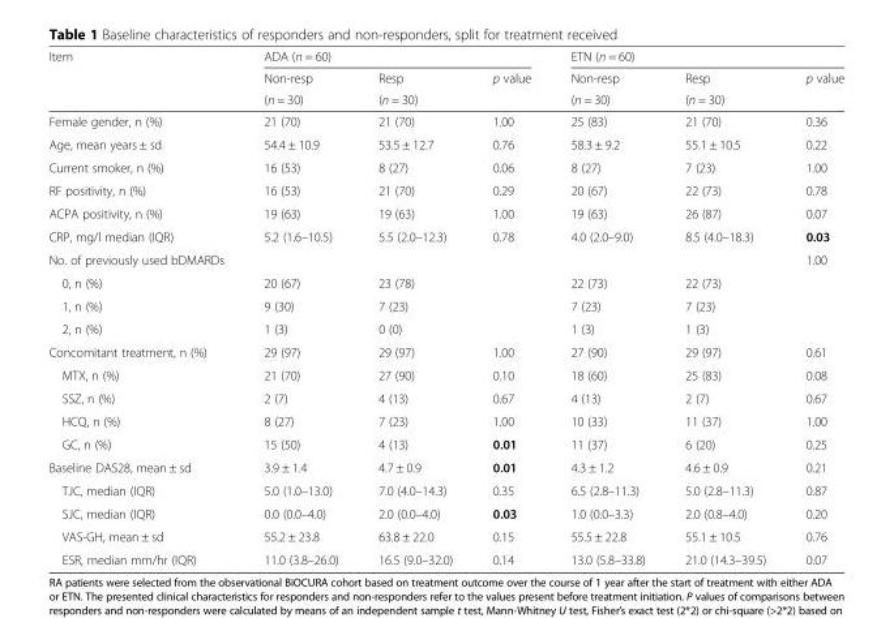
<table><thead><tr><td rowspan="3">Item</td><td colspan="3">ADA (n = 60)</td><td colspan="3">ETN (n = 60)</td></tr><tr><td rowspan="2">Non-resp (n = 30)</td><td rowspan="2">Resp (n = 30)</td><td rowspan="2">p value</td><td rowspan="2">Non-resp (n = 30)</td><td rowspan="2">Resp (n = 30)</td><td rowspan="2">p value</td></tr><tr></tr></thead><tbody><tr><td>Female gender, n (%)</td><td>21 (70)</td><td>21 (70)</td><td>1.00</td><td>25 (83)</td><td>21 (70)</td><td>0.36</td></tr><tr><td>Age, mean years ± sd</td><td>54.4 ± 10.9</td><td>53.5 ± 12.7</td><td>0.76</td><td>58.3 ± 9.2</td><td>55.1 ± 10.5</td><td>0.22</td></tr><tr><td>Current smoker, n (%)</td><td>16 (53)</td><td>8 (27)</td><td>0.06</td><td>8 (27)</td><td>7 (23)</td><td>1.00</td></tr><tr><td>RF positivity, n (%)</td><td>16 (53)</td><td>21 (70)</td><td>0.29</td><td>20 (67)</td><td>22 (73)</td><td>0.78</td></tr><tr><td>ACPA positivity, n (%)</td><td>19 (63)</td><td>19 (63)</td><td>1.00</td><td>19 (63)</td><td>26 (87)</td><td>0.07</td></tr><tr><td>CRP, mg/l median (IQR)</td><td>5.2 (1.6–10.5)</td><td>5.5 (2.0–12.3)</td><td>0.78</td><td>4.0 (2.0–9.0)</td><td>8.5 (4.0–18.3)</td><td>0.03</td></tr><tr><td>No. of previously used bDMARDs</td><td></td><td></td><td></td><td></td><td></td><td>1.00</td></tr><tr><td>0, n (%)</td><td>20 (67)</td><td>23 (78)</td><td></td><td>22 (73)</td><td>22 (73)</td><td></td></tr><tr><td>1, n (%)</td><td>9 (30)</td><td>7 (23)</td><td></td><td>7 (23)</td><td>7 (23)</td><td></td></tr><tr><td>2, n (%)</td><td>1 (3)</td><td>0 (0)</td><td></td><td>1 (3)</td><td>1 (3)</td><td></td></tr><tr><td>Concomitant treatment, n (%)</td><td>29 (97)</td><td>29 (97)</td><td>1.00</td><td>27 (90)</td><td>29 (97)</td><td>0.61</td></tr><tr><td>MTX, n (%)</td><td>21 (70)</td><td>27 (90)</td><td>0.10</td><td>18 (60)</td><td>25 (83)</td><td>0.08</td></tr><tr><td>SSZ, n (%)</td><td>2 (7)</td><td>4 (13)</td><td>0.67</td><td>4 (13)</td><td>2 (7)</td><td>0.67</td></tr><tr><td>HCQ, n (%)</td><td>8 (27)</td><td>7 (23)</td><td>1.00</td><td>10 (33)</td><td>11 (37)</td><td>1.00</td></tr><tr><td>GC, n (%)</td><td>15 (50)</td><td>4 (13)</td><td>0.01</td><td>11 (37)</td><td>6 (20)</td><td>0.25</td></tr><tr><td>Baseline DAS28, mean ± sd</td><td>3.9 ± 1.4</td><td>4.7 ± 0.9</td><td>0.01</td><td>4.3 ± 1.2</td><td>4.6 ± 0.9</td><td>0.21</td></tr><tr><td>TJC, median (IQR)</td><td>5.0 (1.0–13.0)</td><td>7.0 (4.0–14.3)</td><td>0.35</td><td>6.5 (2.8–11.3)</td><td>5.0 (2.8–11.3)</td><td>0.87</td></tr><tr><td>SJC, median (IQR)</td><td>0.0 (0.0–4.0)</td><td>2.0 (0.0–4.0)</td><td>0.03</td><td>1.0 (0.0–3.3)</td><td>2.0 (0.8–4.0)</td><td>0.20</td></tr><tr><td>VAS-GH, mean ± sd</td><td>55.2 ± 23.8</td><td>63.8 ± 22.0</td><td>0.15</td><td>55.5 ± 22.8</td><td>55.1 ± 10.5</td><td>0.76</td></tr><tr><td>ESR, median mm/hr (IQR)</td><td>11.0 (3.8–26.0)</td><td>16.5 (9.0–32.0)</td><td>0.14</td><td>13.0 (5.8–33.8)</td><td>21.0 (14.3–39.5)</td><td>0.07</td></tr></tbody></table>